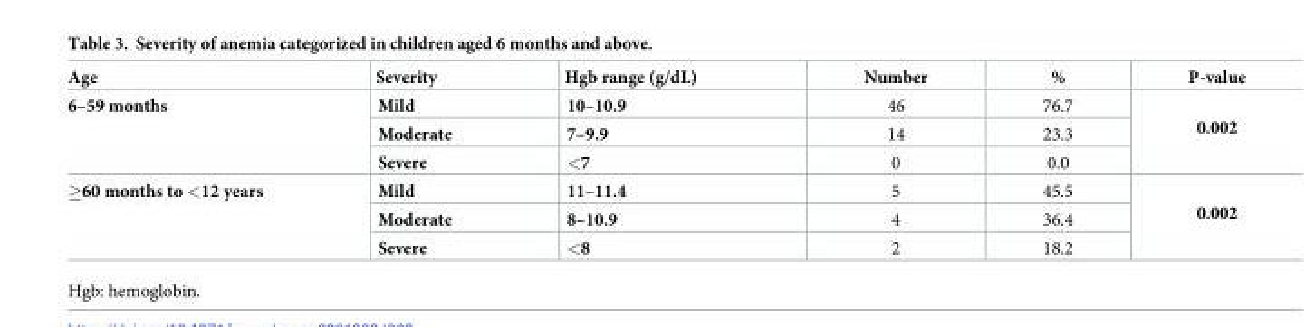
<table><thead><tr><td>Age</td><td>Severity</td><td>Hgb range (g/dL)</td><td>Number</td><td>%</td><td>P-value</td></tr></thead><tbody><tr><td rowspan="3">6–59 months</td><td>Mild</td><td>10–10.9</td><td>46</td><td>76.7</td><td rowspan="3">0.002</td></tr><tr><td>Moderate</td><td>7–9.9</td><td>14</td><td>23.3</td></tr><tr><td>Severe</td><td>&lt;7</td><td>0</td><td>0.0</td></tr><tr><td rowspan="3">≥60 months to &lt;12 years</td><td>Mild</td><td>11–11.4</td><td>5</td><td>45.5</td><td rowspan="3">0.002</td></tr><tr><td>Moderate</td><td>8–10.9</td><td>4</td><td>36.4</td></tr><tr><td>Severe</td><td>&lt;8</td><td>2</td><td>18.2</td></tr></tbody></table>